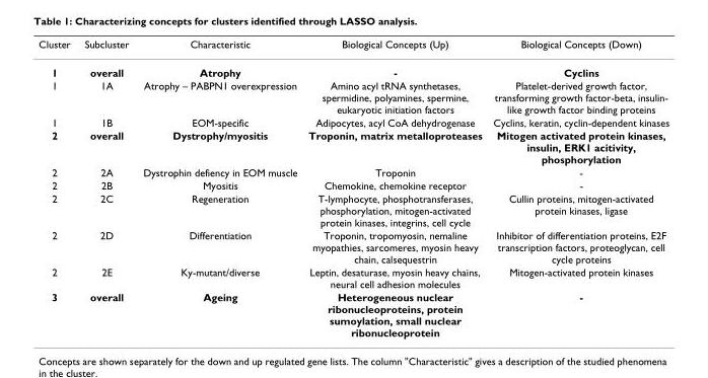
<table><thead><tr><td>Cluster</td><td>Subcluster</td><td>Characteristic</td><td>Biological Concepts (Up)</td><td>Biological Concepts (Down)</td></tr></thead><tbody><tr><td>1</td><td>overall</td><td>Atrophy</td><td>-</td><td>Cyclins</td></tr><tr><td>1</td><td>1A</td><td>Atrophy – PABPN1 overexpression</td><td>Amino acyl tRNA synthetases, spermidine, polyamines, spermine, eukaryotic initiation factors</td><td>Platelet-derived growth factor, transforming growth factor-beta, insulin- like growth factor binding proteins</td></tr><tr><td>1</td><td>1B</td><td>EOM-specific</td><td>Adipocytes, acyl CoA dehydrogenase</td><td>Cyclins, keratin, cyclin-dependent kinases</td></tr><tr><td>2</td><td>overall</td><td>Dystrophy/myositis</td><td>Troponin, matrix metalloproteases</td><td>Mitogen activated protein kinases, insulin, ERK1 acitivity, phosphorylation</td></tr><tr><td>2</td><td>2A</td><td>Dystrophin defiency in EOM muscle</td><td>Troponin</td><td>-</td></tr><tr><td>2</td><td>2B</td><td>Myositis</td><td>Chemokine, chemokine receptor</td><td>-</td></tr><tr><td>2</td><td>2C</td><td>Regeneration</td><td>T-lymphocyte, phosphotransferases, phosphorylation, mitogen-activated protein kinases, integrins, cell cycle</td><td>Cullin proteins, mitogen-activated protein kinases, ligase</td></tr><tr><td>2</td><td>2D</td><td>Differentiation</td><td>Troponin, tropomyosin, nemaline myopathies, sarcomeres, myosin heavy chain, calsequestrin</td><td>Inhibitor of differentiation proteins, E2F transcription factors, proteoglycan, cell cycle proteins</td></tr><tr><td>2</td><td>2E</td><td>Ky-mutant/diverse</td><td>Leptin, desaturase, myosin heavy chains, neural cell adhesion molecules</td><td>Mitogen-activated protein kinases</td></tr><tr><td>3</td><td>overall</td><td>Ageing</td><td>Heterogeneous nuclear ribonucleoproteins, protein sumoylation, small nuclear ribonucleoprotein</td><td>-</td></tr></tbody></table>